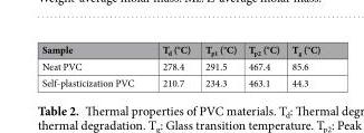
<table><thead><tr><td>Sample</td><td>T<sub>d</sub> (°C)</td><td>T<sub>p1</sub> (°C)</td><td>T<sub>p2</sub> (°C)</td><td>T<sub>g</sub> (°C)</td></tr></thead><tbody><tr><td>Neat PVC</td><td>278.4</td><td>291.5</td><td>467.4</td><td>85.6</td></tr><tr><td>Self-plasticization PVC</td><td>210.7</td><td>234.3</td><td>463.1</td><td>44.3</td></tr></tbody></table>